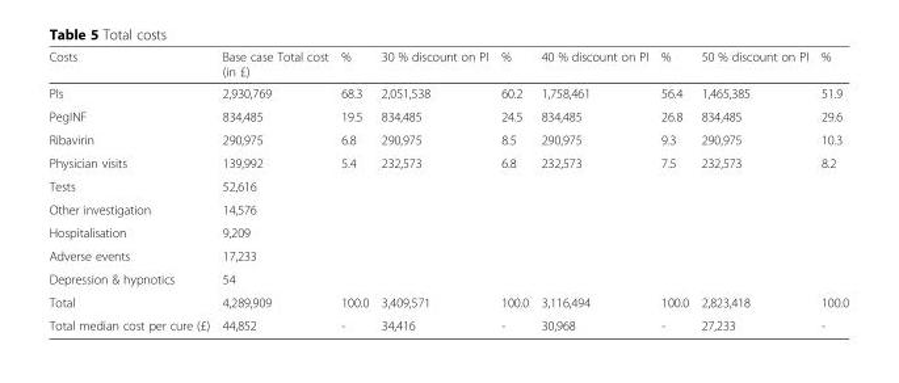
<table><thead><tr><td>Costs</td><td>Base case Total cost (in £)</td><td>%</td><td>30 % discount on PI</td><td>%</td><td>40 % discount on PI</td><td>%</td><td>50 % discount on PI</td><td>%</td></tr></thead><tbody><tr><td>PIs</td><td>2,930,769</td><td>68.3</td><td>2,051,538</td><td>60.2</td><td>1,758,461</td><td>56.4</td><td>1,465,385</td><td>51.9</td></tr><tr><td>PegINF</td><td>834,485</td><td>19.5</td><td>834,485</td><td>24.5</td><td>834,485</td><td>26.8</td><td>834,485</td><td>29.6</td></tr><tr><td>Ribavirin</td><td>290,975</td><td>6.8</td><td>290,975</td><td>8.5</td><td>290,975</td><td>9.3</td><td>290,975</td><td>10.3</td></tr><tr><td>Physician visits</td><td>139,992</td><td rowspan="6">5.4</td><td rowspan="6">232,573</td><td rowspan="6">6.8</td><td rowspan="6">232,573</td><td rowspan="6">7.5</td><td rowspan="6">232,573</td><td rowspan="6">8.2</td></tr><tr><td>Tests</td><td>52,616</td></tr><tr><td>Other investigation</td><td>14,576</td></tr><tr><td>Hospitalisation</td><td>9,209</td></tr><tr><td>Adverse events</td><td>17,233</td></tr><tr><td>Depression &amp; hypnotics</td><td>54</td></tr><tr><td>Total</td><td>4,289,909</td><td>100.0</td><td>3,409,571</td><td>100.0</td><td>3,116,494</td><td>100.0</td><td>2,823,418</td><td>100.0</td></tr><tr><td>Total median cost per cure (£)</td><td>44,852</td><td>-</td><td>34,416</td><td>-</td><td>30,968</td><td>-</td><td>27,233</td><td>-</td></tr></tbody></table>